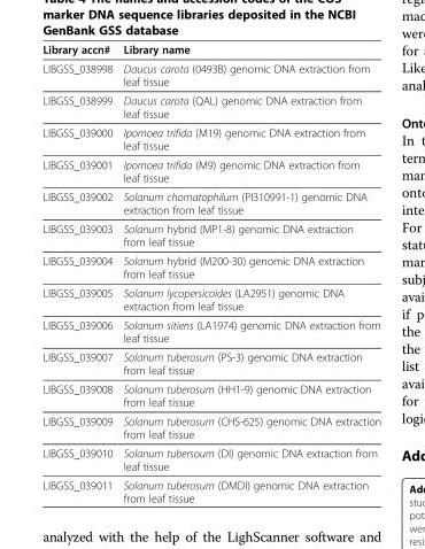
<table><thead><tr><td>Library accn#</td><td>Library name</td></tr></thead><tbody><tr><td>LIBGSS_038998</td><td>Daucus carota (0493B) genomic DNA extraction from leaf tissue</td></tr><tr><td>LIBGSS_038999</td><td>Daucus carota (QAL) genomic DNA extraction from leaf tissue</td></tr><tr><td>LIBGSS_039000</td><td>Ipomoea trifida (M19) genomic DNA extraction from leaf tissue</td></tr><tr><td>LIBGSS_039001</td><td>Ipomoea trifida (M9) genomic DNA extraction from leaf tissue</td></tr><tr><td>LIBGSS_039002</td><td>Solanum chomatophilum (PI310991-1) genomic DNA extraction from leaf tissue</td></tr><tr><td>LIBGSS_039003</td><td>Solanum hybrid (MP1-8) genomic DNA extraction from leaf tissue</td></tr><tr><td>LIBGSS_039004</td><td>Solanum hybrid (M200-30) genomic DNA extraction from leaf tissue</td></tr><tr><td>LIBGSS_039005</td><td>Solanum lycopersicoides (LA2951) genomic DNA extraction from leaf tissue</td></tr><tr><td>LIBGSS_039006</td><td>Solanum sitiens (LA1974) genomic DNA extraction from leaf tissue</td></tr><tr><td>LIBGSS_039007</td><td>Solanum tuberosum (PS-3) genomic DNA extraction from leaf tissue</td></tr><tr><td>LIBGSS_039008</td><td>Solanum tuberosum (HH1-9) genomic DNA extraction from leaf tissue</td></tr><tr><td>LIBGSS_039009</td><td>Solanum tuberosum (CHS-625) genomic DNA extraction from leaf tissue</td></tr><tr><td>LIBGSS_039010</td><td>Solanum tubersoum (DI) genomic DNA extraction from leaf tissue</td></tr><tr><td>LIBGSS_039011</td><td>Solanum tuberosum (DMDI) genomic DNA extraction from leaf tissue</td></tr></tbody></table>